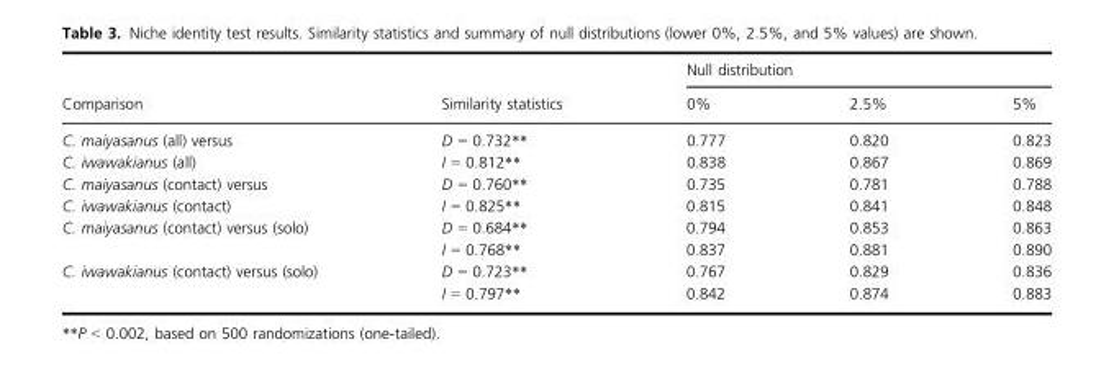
<table><thead><tr><td rowspan="2">Comparison</td><td rowspan="2">Similarity statistics</td><td colspan="3">Null distribution</td></tr><tr><td>0%</td><td>2.5%</td><td>5%</td></tr></thead><tbody><tr><td>C. maiyasanus (all) versus</td><td>D = 0.732**</td><td>0.777</td><td>0.820</td><td>0.823</td></tr><tr><td>C. iwawakianus (all)</td><td>I = 0.812**</td><td>0.838</td><td>0.867</td><td>0.869</td></tr><tr><td>C. maiyasanus (contact) versus</td><td>D = 0.760**</td><td>0.735</td><td>0.781</td><td>0.788</td></tr><tr><td>C. iwawakianus (contact)</td><td>I = 0.825**</td><td>0.815</td><td>0.841</td><td>0.848</td></tr><tr><td rowspan="2">C. maiyasanus (contact) versus (solo)</td><td>D = 0.684**</td><td>0.794</td><td>0.853</td><td>0.863</td></tr><tr><td>I = 0.768**</td><td>0.837</td><td>0.881</td><td>0.890</td></tr><tr><td rowspan="2">C. iwawakianus (contact) versus (solo)</td><td>D = 0.723**</td><td>0.767</td><td>0.829</td><td>0.836</td></tr><tr><td>I = 0.797**</td><td>0.842</td><td>0.874</td><td>0.883</td></tr></tbody></table>